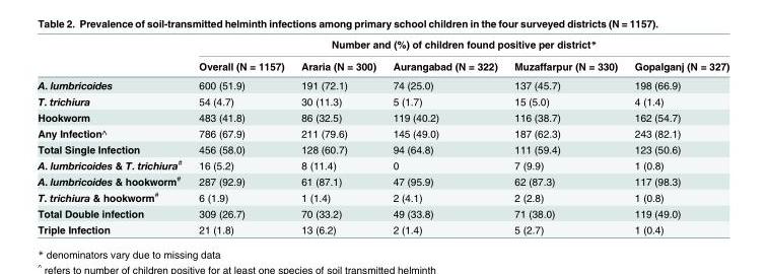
<table><thead><tr><td rowspan="2"></td><td colspan="5">Number and (%) of children found positive per district*</td></tr><tr><td>Overall (N = 1157)</td><td>Araria (N = 300)</td><td>Aurangabad (N = 322)</td><td>Muzaffarpur (N = 330)</td><td>Gopalganj (N = 327)</td></tr></thead><tbody><tr><td>A. lumbricoides</td><td>600 (51.9)</td><td>191 (72.1)</td><td>74 (25.0)</td><td>137 (45.7)</td><td>198 (66.9)</td></tr><tr><td>T. trichiura</td><td>54 (4.7)</td><td>30 (11.3)</td><td>5 (1.7)</td><td>15 (5.0)</td><td>4 (1.4)</td></tr><tr><td>Hookworm</td><td>483 (41.8)</td><td>86 (32.5)</td><td>119 (40.2)</td><td>116 (38.7)</td><td>162 (54.7)</td></tr><tr><td>Any Infection^</td><td>786 (67.9)</td><td>211 (79.6)</td><td>145 (49.0)</td><td>187 (62.3)</td><td>243 (82.1)</td></tr><tr><td>Total Single Infection</td><td>456 (58.0)</td><td>128 (60.7)</td><td>94 (64.8)</td><td>111 (59.4)</td><td>123 (50.6)</td></tr><tr><td>A. lumbricoides &amp; T. trichiura<sup>#</sup></td><td>16 (5.2)</td><td>8 (11.4)</td><td>0</td><td>7 (9.9)</td><td>1 (0.8)</td></tr><tr><td>A. lumbricoides &amp; hookworm<sup>#</sup></td><td>287 (92.9)</td><td>61 (87.1)</td><td>47 (95.9)</td><td>62 (87.3)</td><td>117 (98.3)</td></tr><tr><td>T. trichiura &amp; hookworm<sup>#</sup></td><td>6 (1.9)</td><td>1 (1.4)</td><td>2 (4.1)</td><td>2 (2.8)</td><td>1 (0.8)</td></tr><tr><td>Total Double infection</td><td>309 (26.7)</td><td>70 (33.2)</td><td>49 (33.8)</td><td>71 (38.0)</td><td>119 (49.0)</td></tr><tr><td>Triple Infection</td><td>21 (1.8)</td><td>13 (6.2)</td><td>2 (1.4)</td><td>5 (2.7)</td><td>1 (0.4)</td></tr></tbody></table>